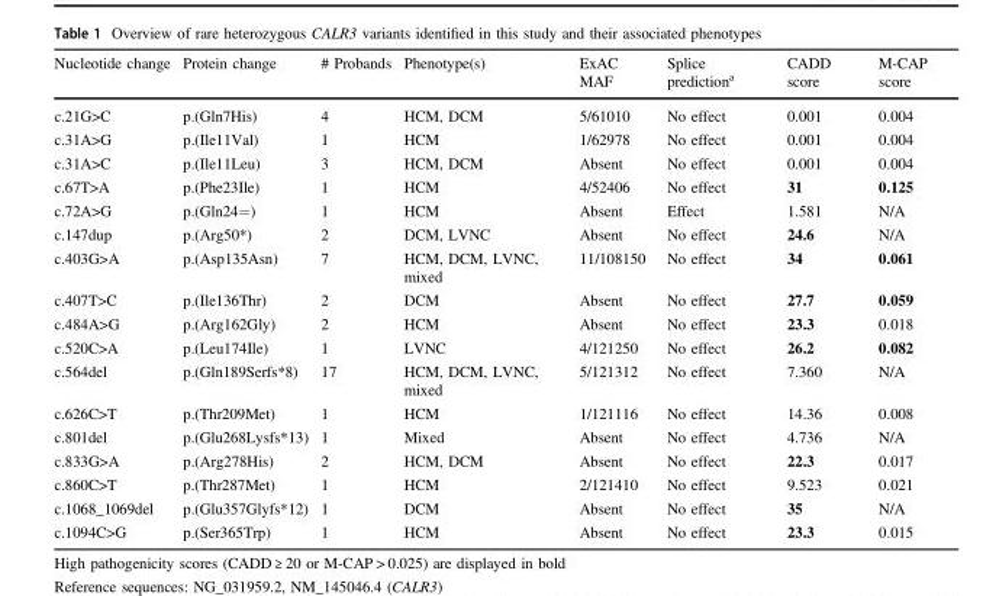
<table><thead><tr><td>Nucleotide change</td><td>Protein change</td><td># Probands</td><td>Phenotype(s)</td><td>ExAC MAF</td><td>Splice prediction<sup>a</sup></td><td>CADD score</td><td>M-CAP score</td></tr></thead><tbody><tr><td>c.21G&gt;C</td><td>p.(Gln7His)</td><td>4</td><td>HCM, DCM</td><td>5/61010</td><td>No effect</td><td>0.001</td><td>0.004</td></tr><tr><td>c.31A&gt;G</td><td>p.(Ile11Val)</td><td>1</td><td>HCM</td><td>1/62978</td><td>No effect</td><td>0.001</td><td>0.004</td></tr><tr><td>c.31A&gt;C</td><td>p.(Ile11Leu)</td><td>3</td><td>HCM, DCM</td><td>Absent</td><td>No effect</td><td>0.001</td><td>0.004</td></tr><tr><td>c.67T&gt;A</td><td>p.(Phe23Ile)</td><td>1</td><td>HCM</td><td>4/52406</td><td>No effect</td><td>31</td><td>0.125</td></tr><tr><td>c.72A&gt;G</td><td>p.(Gln24=)</td><td>1</td><td>HCM</td><td>Absent</td><td>Effect</td><td>1.581</td><td>N/A</td></tr><tr><td>c.147dup</td><td>p.(Arg50*)</td><td>2</td><td>DCM, LVNC</td><td>Absent</td><td>No effect</td><td>24.6</td><td>N/A</td></tr><tr><td>c.403G&gt;A</td><td>p.(Asp135Asn)</td><td>7</td><td>HCM, DCM, LVNC, mixed</td><td>11/108150</td><td>No effect</td><td>34</td><td>0.061</td></tr><tr><td>c.407T&gt;C</td><td>p.(Ile136Thr)</td><td>2</td><td>DCM</td><td>Absent</td><td>No effect</td><td>27.7</td><td>0.059</td></tr><tr><td>c.484A&gt;G</td><td>p.(Arg162Gly)</td><td>2</td><td>HCM</td><td>Absent</td><td>No effect</td><td>23.3</td><td>0.018</td></tr><tr><td>c.520C&gt;A</td><td>p.(Leu174Ile)</td><td>1</td><td>LVNC</td><td>4/121250</td><td>No effect</td><td>26.2</td><td>0.082</td></tr><tr><td>c.564del</td><td>p.(Gln189Serfs*8)</td><td>17</td><td>HCM, DCM, LVNC, mixed</td><td>5/121312</td><td>No effect</td><td>7.360</td><td>N/A</td></tr><tr><td>c.626C&gt;T</td><td>p.(Thr209Met)</td><td>1</td><td>HCM</td><td>1/121116</td><td>No effect</td><td>14.36</td><td>0.008</td></tr><tr><td>c.801del</td><td>p.(Glu268Lysfs*13)</td><td>1</td><td>Mixed</td><td>Absent</td><td>No effect</td><td>4.736</td><td>N/A</td></tr><tr><td>c.833G&gt;A</td><td>p.(Arg278His)</td><td>2</td><td>HCM, DCM</td><td>Absent</td><td>No effect</td><td>22.3</td><td>0.017</td></tr><tr><td>c.860C&gt;T</td><td>p.(Thr287Met)</td><td>1</td><td>HCM</td><td>2/121410</td><td>No effect</td><td>9.523</td><td>0.021</td></tr><tr><td>c.1068_1069del</td><td>p.(Glu357Glyfs*12)</td><td>1</td><td>DCM</td><td>Absent</td><td>No effect</td><td>35</td><td>N/A</td></tr><tr><td>c.1094C&gt;G</td><td>p.(Ser365Trp)</td><td>1</td><td>HCM</td><td>Absent</td><td>No effect</td><td>23.3</td><td>0.015</td></tr></tbody></table>